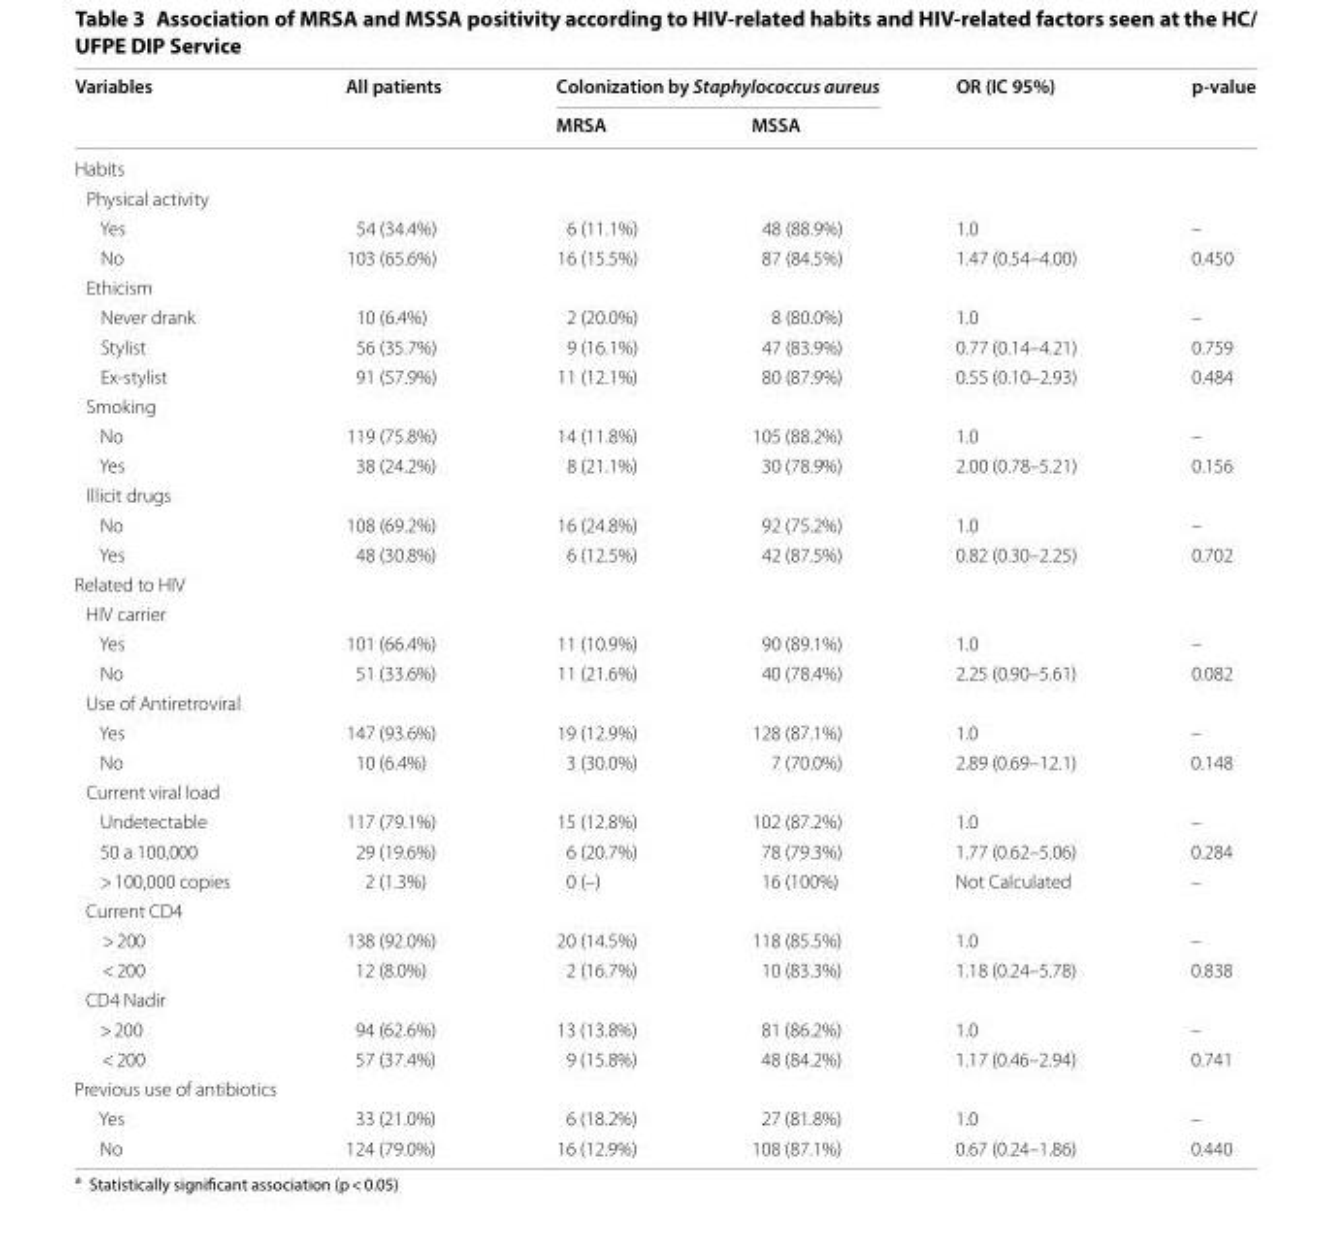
<table><thead><tr><td rowspan="2">Variables</td><td rowspan="2">All patients</td><td colspan="2">Colonization by Staphylococcus aureus</td><td rowspan="2">OR (IC 95%)</td><td rowspan="2">p-value</td></tr><tr><td>MRSA</td><td>MSSA</td></tr></thead><tbody><tr><td colspan="6">Habits</td></tr><tr><td colspan="6">Physical activity</td></tr><tr><td>Yes</td><td>54 (34.4%)</td><td>6 (11.1%)</td><td>48 (88.9%)</td><td>1.0</td><td>–</td></tr><tr><td>No</td><td>103 (65.6%)</td><td>16 (15.5%)</td><td>87 (84.5%)</td><td>1.47 (0.54–4.00)</td><td>0.450</td></tr><tr><td colspan="6">Ethicism</td></tr><tr><td>Never drank</td><td>10 (6.4%)</td><td>2 (20.0%)</td><td>8 (80.0%)</td><td>1.0</td><td>–</td></tr><tr><td>Stylist</td><td>56 (35.7%)</td><td>9 (16.1%)</td><td>47 (83.9%)</td><td>0.77 (0.14–4.21)</td><td>0.759</td></tr><tr><td>Ex-stylist</td><td>91 (57.9%)</td><td>11 (12.1%)</td><td>80 (87.9%)</td><td>0.55 (0.10–2.93)</td><td>0.484</td></tr><tr><td colspan="6">Smoking</td></tr><tr><td>No</td><td>119 (75.8%)</td><td>14 (11.8%)</td><td>105 (88.2%)</td><td>1.0</td><td>–</td></tr><tr><td>Yes</td><td>38 (24.2%)</td><td>8 (21.1%)</td><td>30 (78.9%)</td><td>2.00 (0.78–5.21)</td><td>0.156</td></tr><tr><td colspan="6">Illicit drugs</td></tr><tr><td>No</td><td>108 (69.2%)</td><td>16 (24.8%)</td><td>92 (75.2%)</td><td>1.0</td><td>–</td></tr><tr><td>Yes</td><td>48 (30.8%)</td><td>6 (12.5%)</td><td>42 (87.5%)</td><td>0.82 (0.30–2.25)</td><td>0.702</td></tr><tr><td colspan="6">Related to HIV</td></tr><tr><td colspan="6">HIV carrier</td></tr><tr><td>Yes</td><td>101 (66.4%)</td><td>11 (10.9%)</td><td>90 (89.1%)</td><td>1.0</td><td>–</td></tr><tr><td>No</td><td>51 (33.6%)</td><td>11 (21.6%)</td><td>40 (78.4%)</td><td>2.25 (0.90–5.61)</td><td>0.082</td></tr><tr><td colspan="6">Use of Antiretroviral</td></tr><tr><td>Yes</td><td>147 (93.6%)</td><td>19 (12.9%)</td><td>128 (87.1%)</td><td>1.0</td><td>–</td></tr><tr><td>No</td><td>10 (6.4%)</td><td>3 (30.0%)</td><td>7 (70.0%)</td><td>2.89 (0.69–12.1)</td><td>0.148</td></tr><tr><td colspan="6">Current viral load</td></tr><tr><td>Undetectable</td><td>117 (79.1%)</td><td>15 (12.8%)</td><td>102 (87.2%)</td><td>1.0</td><td>–</td></tr><tr><td>50 a 100,000</td><td>29 (19.6%)</td><td>6 (20.7%)</td><td>78 (79.3%)</td><td>1.77 (0.62–5.06)</td><td>0.284</td></tr><tr><td>&gt; 100,000 copies</td><td>2 (1.3%)</td><td>0 (–)</td><td>16 (100%)</td><td>Not Calculated</td><td>–</td></tr><tr><td colspan="6">Current CD4</td></tr><tr><td>&gt; 200</td><td>138 (92.0%)</td><td>20 (14.5%)</td><td>118 (85.5%)</td><td>1.0</td><td>–</td></tr><tr><td>&lt; 200</td><td>12 (8.0%)</td><td>2 (16.7%)</td><td>10 (83.3%)</td><td>1.18 (0.24–5.78)</td><td>0.838</td></tr><tr><td colspan="6">CD4 Nadir</td></tr><tr><td>&gt; 200</td><td>94 (62.6%)</td><td>13 (13.8%)</td><td>81 (86.2%)</td><td>1.0</td><td>–</td></tr><tr><td>&lt; 200</td><td>57 (37.4%)</td><td>9 (15.8%)</td><td>48 (84.2%)</td><td>1.17 (0.46–2.94)</td><td>0.741</td></tr><tr><td colspan="6">Previous use of antibiotics</td></tr><tr><td>Yes</td><td>33 (21.0%)</td><td>6 (18.2%)</td><td>27 (81.8%)</td><td>1.0</td><td>–</td></tr><tr><td>No</td><td>124 (79.0%)</td><td>16 (12.9%)</td><td>108 (87.1%)</td><td>0.67 (0.24–1.86)</td><td>0.440</td></tr></tbody></table>